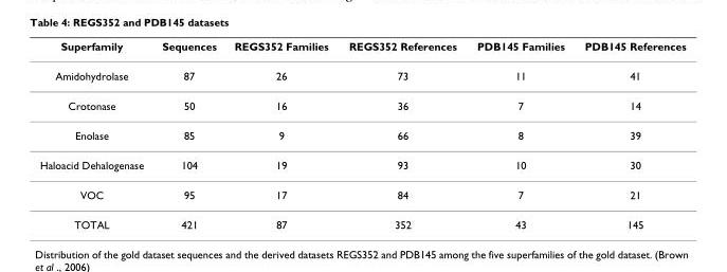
<table><thead><tr><td>Superfamily</td><td>Sequences</td><td>REGS352 Families</td><td>REGS352 References</td><td>PDB145 Families</td><td>PDB145 References</td></tr></thead><tbody><tr><td>Amidohydrolase</td><td>87</td><td>26</td><td>73</td><td>11</td><td>41</td></tr><tr><td>Crotonase</td><td>50</td><td>16</td><td>36</td><td>7</td><td>14</td></tr><tr><td>Enolase</td><td>85</td><td>9</td><td>66</td><td>8</td><td>39</td></tr><tr><td>Haloacid Dehalogenase</td><td>104</td><td>19</td><td>93</td><td>10</td><td>30</td></tr><tr><td>VOC</td><td>95</td><td>17</td><td>84</td><td>7</td><td>21</td></tr><tr><td>TOTAL</td><td>421</td><td>87</td><td>352</td><td>43</td><td>145</td></tr></tbody></table>